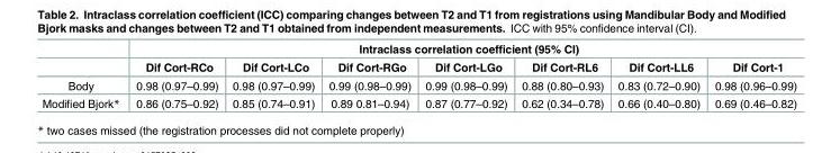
<table><thead><tr><td rowspan="2"></td><td colspan="7">Intraclass correlation coefficient (95% CI)</td></tr><tr><td>Dif Cort-RCo</td><td>Dif Cort-LCo</td><td>Dif Cort-RGo</td><td>Dif Cort-LGo</td><td>Dif Cort-RL6</td><td>Dif Cort-LL6</td><td>Dif Cort-1</td></tr></thead><tbody><tr><td>Body</td><td>0.98 (0.97–0.99)</td><td>0.98 (0.97–0.99)</td><td>0.99 (0.98–0.99)</td><td>0.99 (0.98–0.99)</td><td>0.88 (0.80–0.93)</td><td>0.83 (0.72–0.90)</td><td>0.98 (0.96–0.99)</td></tr><tr><td>Modified Bjork*</td><td>0.86 (0.75–0.92)</td><td>0.85 (0.74–0.91)</td><td>0.89 0.81–0.94)</td><td>0.87 (0.77–0.92)</td><td>0.62 (0.34–0.78)</td><td>0.66 (0.40–0.80)</td><td>0.69 (0.46–0.82)</td></tr></tbody></table>